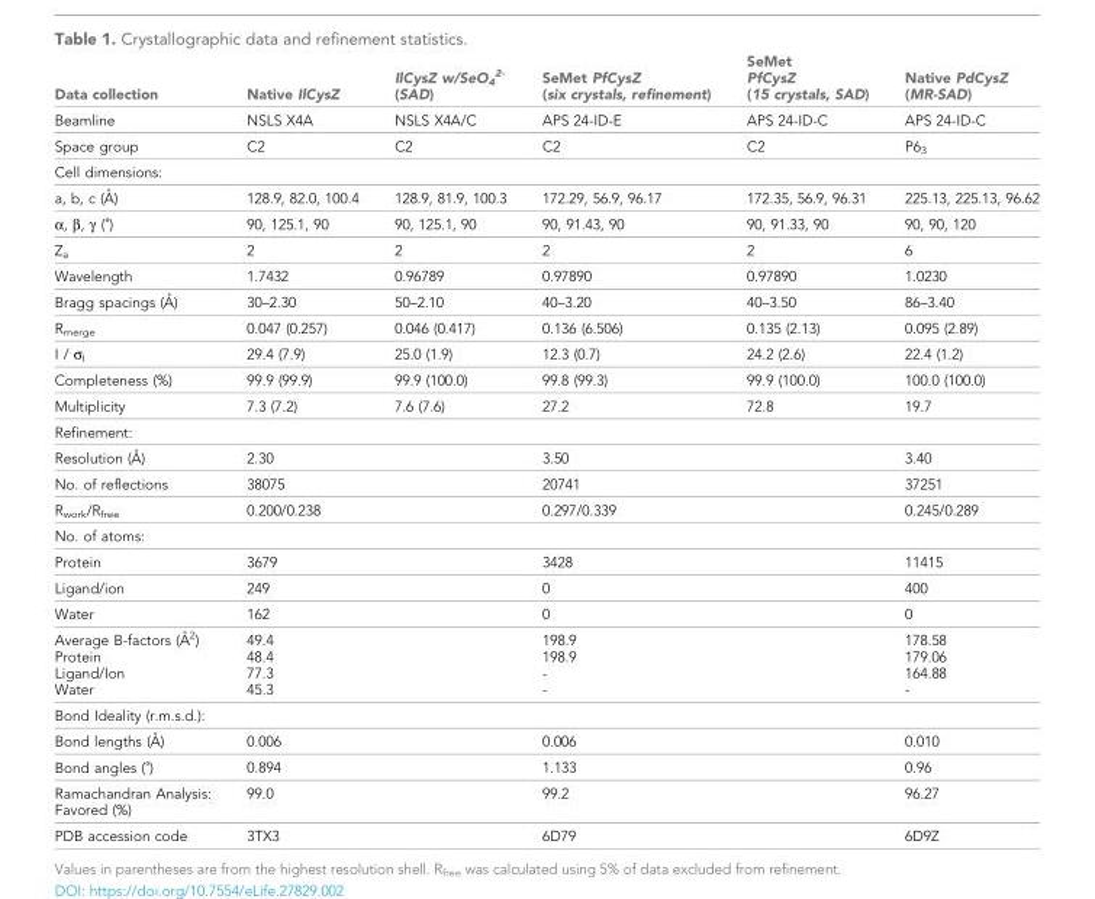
<table><thead><tr><td>Data collection</td><td>Native IlCysZ</td><td>IlCysZ w/SeO<sub>4</sub> <sup>2-</sup> (SAD)</td><td>SeMet PfCysZ (six crystals, refinement)</td><td>SeMet PfCysZ (15 crystals, SAD)</td><td>Native PdCysZ (MR-SAD)</td></tr></thead><tbody><tr><td>Beamline</td><td>NSLS X4A</td><td>NSLS X4A/C</td><td>APS 24-ID-E</td><td>APS 24-ID-C</td><td>APS 24-ID-C</td></tr><tr><td>Space group</td><td>C2</td><td>C2</td><td>C2</td><td>C2</td><td>P6<sub>3</sub></td></tr><tr><td colspan="6">Cell dimensions:</td></tr><tr><td>a, b, c (A˚ )</td><td>128.9, 82.0, 100.4</td><td>128.9, 81.9, 100.3</td><td>172.29, 56.9, 96.17</td><td>172.35, 56.9, 96.31</td><td>225.13, 225.13, 96.62</td></tr><tr><td>α, β, γ (˚)</td><td>90, 125.1, 90</td><td>90, 125.1, 90</td><td>90, 91.43, 90</td><td>90, 91.33, 90</td><td>90, 90, 120</td></tr><tr><td>Z<sub>a</sub></td><td>2</td><td>2</td><td>2</td><td>2</td><td>6</td></tr><tr><td>Wavelength</td><td>1.7432</td><td>0.96789</td><td>0.97890</td><td>0.97890</td><td>1.0230</td></tr><tr><td>Bragg spacings (A˚ )</td><td>30–2.30</td><td>50–2.10</td><td>40–3.20</td><td>40–3.50</td><td>86–3.40</td></tr><tr><td>R<sub>merge</sub></td><td>0.047 (0.257)</td><td>0.046 (0.417)</td><td>0.136 (6.506)</td><td>0.135 (2.13)</td><td>0.095 (2.89)</td></tr><tr><td>I / σ<sub>I</sub></td><td>29.4 (7.9)</td><td>25.0 (1.9)</td><td>12.3 (0.7)</td><td>24.2 (2.6)</td><td>22.4 (1.2)</td></tr><tr><td>Completeness (%)</td><td>99.9 (99.9)</td><td>99.9 (100.0)</td><td>99.8 (99.3)</td><td>99.9 (100.0)</td><td>100.0 (100.0)</td></tr><tr><td>Multiplicity</td><td>7.3 (7.2)</td><td>7.6 (7.6)</td><td>27.2</td><td>72.8</td><td>19.7</td></tr><tr><td colspan="6">Refinement:</td></tr><tr><td>Resolution (A˚ )</td><td>2.30</td><td></td><td>3.50</td><td></td><td>3.40</td></tr><tr><td>No. of reflections</td><td>38075</td><td></td><td>20741</td><td></td><td>37251</td></tr><tr><td>R<sub>work</sub>/R<sub>free</sub></td><td>0.200/0.238</td><td></td><td>0.297/0.339</td><td></td><td>0.245/0.289</td></tr><tr><td colspan="6">No. of atoms:</td></tr><tr><td>Protein</td><td>3679</td><td></td><td>3428</td><td></td><td>11415</td></tr><tr><td>Ligand/ion</td><td>249</td><td></td><td>0</td><td></td><td>400</td></tr><tr><td>Water</td><td>162</td><td></td><td>0</td><td></td><td>0</td></tr><tr><td>Average B-factors (A˚ 2) Protein Ligand/Ion Water</td><td>49.4 48.4 77.3 45.3</td><td></td><td>198.9 198.9 - -</td><td></td><td>178.58 179.06 164.88 -</td></tr><tr><td colspan="6">Bond Ideality (r.m.s.d.):</td></tr><tr><td>Bond lengths (A˚ )</td><td>0.006</td><td></td><td>0.006</td><td></td><td>0.010</td></tr><tr><td>Bond angles (˚)</td><td>0.894</td><td></td><td>1.133</td><td></td><td>0.96</td></tr><tr><td>Ramachandran Analysis: Favored (%)</td><td>99.0</td><td></td><td>99.2</td><td></td><td>96.27</td></tr><tr><td>PDB accession code</td><td>3TX3</td><td></td><td>6D79</td><td></td><td>6D9Z</td></tr></tbody></table>